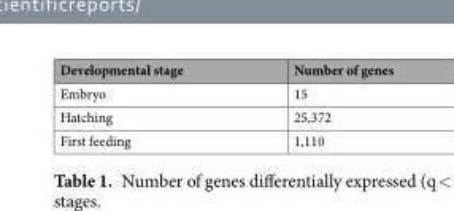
<table><thead><tr><td>Developmental stage</td><td>Number of genes</td></tr></thead><tbody><tr><td>Embryo</td><td>15</td></tr><tr><td>Hatching</td><td>25,372</td></tr><tr><td>First feeding</td><td>1,110</td></tr></tbody></table>